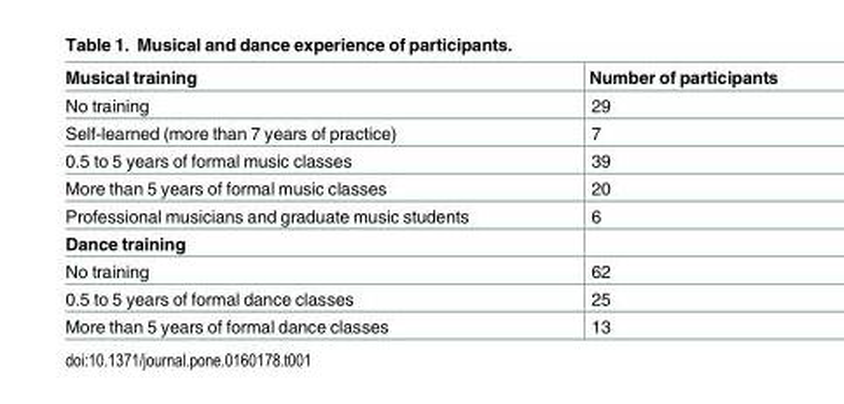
<table><thead><tr><td>Musical training</td><td>Number of participants</td></tr></thead><tbody><tr><td>No training</td><td>29</td></tr><tr><td>Self-learned (more than 7 years of practice)</td><td>7</td></tr><tr><td>0.5 to 5 years of formal music classes</td><td>39</td></tr><tr><td>More than 5 years of formal music classes</td><td>20</td></tr><tr><td>Professional musicians and graduate music students</td><td>6</td></tr><tr><td colspan="2">Dance training</td></tr><tr><td>No training</td><td>62</td></tr><tr><td>0.5 to 5 years of formal dance classes</td><td>25</td></tr><tr><td>More than 5 years of formal dance classes</td><td>13</td></tr></tbody></table>